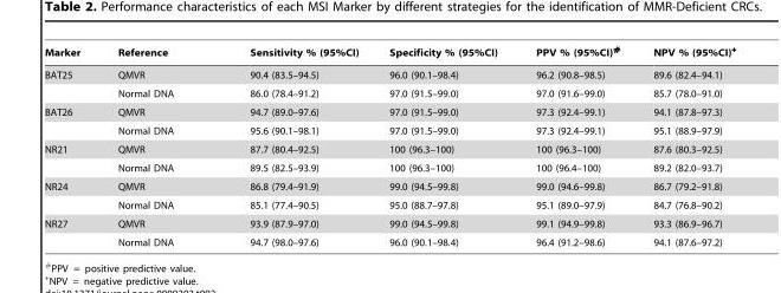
<table><thead><tr><td>Marker</td><td>Reference</td><td>Sensitivity % (95%CI)</td><td>Specificity % (95%CI)</td><td>PPV % (95%CI)#</td><td>NPV % (95%CI)+</td></tr></thead><tbody><tr><td rowspan="2">BAT25</td><td>QMVR</td><td>90.4 (83.5–94.5)</td><td>96.0 (90.1–98.4)</td><td>96.2 (90.8–98.5)</td><td>89.6 (82.4–94.1)</td></tr><tr><td>Normal DNA</td><td>86.0 (78.4–91.2)</td><td>97.0 (91.5–99.0)</td><td>97.0 (91.6–99.0)</td><td>85.7 (78.0–91.0)</td></tr><tr><td rowspan="2">BAT26</td><td>QMVR</td><td>94.7 (89.0–97.6)</td><td>97.0 (91.5–99.0)</td><td>97.3 (92.4–99.1)</td><td>94.1 (87.8–97.3)</td></tr><tr><td>Normal DNA</td><td>95.6 (90.1–98.1)</td><td>97.0 (91.5–99.0)</td><td>97.3 (92.4–99.1)</td><td>95.1 (88.9–97.9)</td></tr><tr><td rowspan="2">NR21</td><td>QMVR</td><td>87.7 (80.4–92.5)</td><td>100 (96.3–100)</td><td>100 (96.3–100)</td><td>87.6 (80.3–92.5)</td></tr><tr><td>Normal DNA</td><td>89.5 (82.5–93.9)</td><td>100 (96.3–100)</td><td>100 (96.4–100)</td><td>89.2 (82.0–93.7)</td></tr><tr><td rowspan="2">NR24</td><td>QMVR</td><td>86.8 (79.4–91.9)</td><td>99.0 (94.5–99.8)</td><td>99.0 (94.6–99.8)</td><td>86.7 (79.2–91.8)</td></tr><tr><td>Normal DNA</td><td>85.1 (77.4–90.5)</td><td>95.0 (88.7–97.8)</td><td>95.1 (89.0–97.9)</td><td>84.7 (76.8–90.2)</td></tr><tr><td rowspan="2">NR27</td><td>QMVR</td><td>93.9 (87.9–97.0)</td><td>99.0 (94.5–99.8)</td><td>99.1 (94.9–99.8)</td><td>93.3 (86.9–96.7)</td></tr><tr><td>Normal DNA</td><td>94.7 (98.0–97.6)</td><td>96.0 (90.1–98.4)</td><td>96.4 (91.2–98.6)</td><td>94.1 (87.6–97.2)</td></tr></tbody></table>